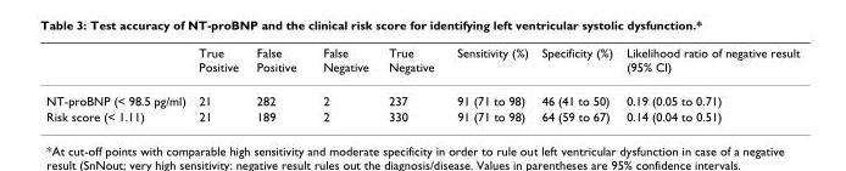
<table><thead><tr><td></td><td>True Positive</td><td>False Positive</td><td>False Negative</td><td>True Negative</td><td>Sensitivity (%)</td><td>Specificity (%)</td><td>Likelihood ratio of negative result (95% CI)</td></tr></thead><tbody><tr><td>NT-proBNP (&lt; 98.5 pg/ml)</td><td>21</td><td>282</td><td>2</td><td>237</td><td>91 (71 to 98)</td><td>46 (41 to 50)</td><td>0.19 (0.05 to 0.71)</td></tr><tr><td>Risk score (&lt; 1.11)</td><td>21</td><td>189</td><td>2</td><td>330</td><td>91 (71 to 98)</td><td>64 (59 to 67)</td><td>0.14 (0.04 to 0.51)</td></tr></tbody></table>